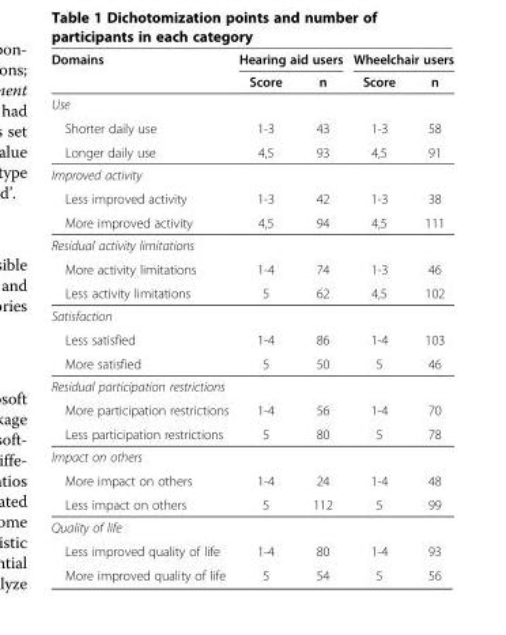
<table><thead><tr><td rowspan="2">Domains</td><td colspan="2">Hearing aid users</td><td colspan="2">Wheelchair users</td></tr><tr><td>Score</td><td>n</td><td>Score</td><td>n</td></tr></thead><tbody><tr><td colspan="5">Use</td></tr><tr><td>Shorter daily use</td><td>1-3</td><td>43</td><td>1-3</td><td>58</td></tr><tr><td>Longer daily use</td><td>4,5</td><td>93</td><td>4,5</td><td>91</td></tr><tr><td colspan="5">Improved activity</td></tr><tr><td>Less improved activity</td><td>1-3</td><td>42</td><td>1-3</td><td>38</td></tr><tr><td>More improved activity</td><td>4,5</td><td>94</td><td>4,5</td><td>111</td></tr><tr><td colspan="5">Residual activity limitations</td></tr><tr><td>More activity limitations</td><td>1-4</td><td>74</td><td>1-3</td><td>46</td></tr><tr><td>Less activity limitations</td><td>5</td><td>62</td><td>4,5</td><td>102</td></tr><tr><td colspan="5">Satisfaction</td></tr><tr><td>Less satisfied</td><td>1-4</td><td>86</td><td>1-4</td><td>103</td></tr><tr><td>More satisfied</td><td>5</td><td>50</td><td>5</td><td>46</td></tr><tr><td colspan="5">Residual participation restrictions</td></tr><tr><td>More participation restrictions</td><td>1-4</td><td>56</td><td>1-4</td><td>70</td></tr><tr><td>Less participation restrictions</td><td>5</td><td>80</td><td>5</td><td>78</td></tr><tr><td colspan="5">Impact on others</td></tr><tr><td>More impact on others</td><td>1-4</td><td>24</td><td>1-4</td><td>48</td></tr><tr><td>Less impact on others</td><td>5</td><td>112</td><td>5</td><td>99</td></tr><tr><td colspan="5">Quality of life</td></tr><tr><td>Less improved quality of life</td><td>1-4</td><td>80</td><td>1-4</td><td>93</td></tr><tr><td>More improved quality of life</td><td>5</td><td>54</td><td>5</td><td>56</td></tr></tbody></table>